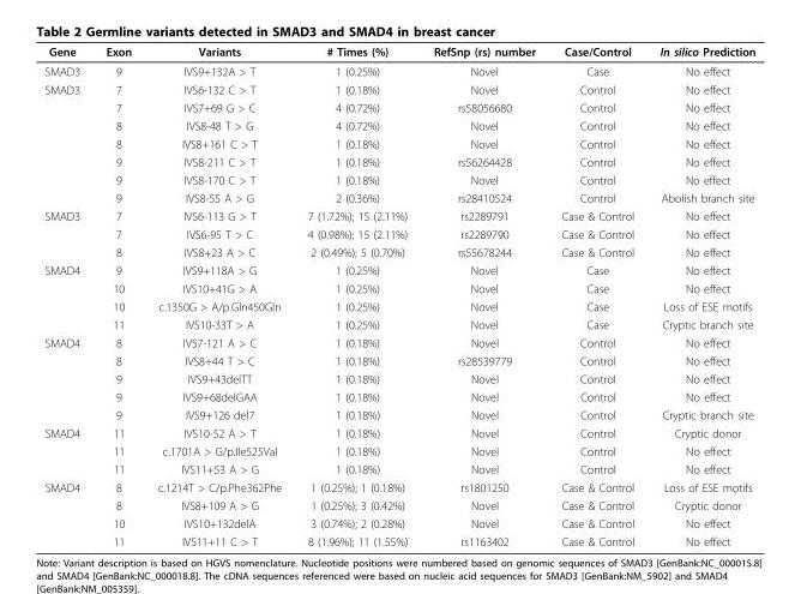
<table><thead><tr><td>Gene</td><td>Exon</td><td>Variants</td><td># Times (%)</td><td>RefSnp (rs) number</td><td>Case/Control</td><td>In silico Prediction</td></tr></thead><tbody><tr><td>SMAD3</td><td>9</td><td>IVS9+132A &gt; T</td><td>1 (0.25%)</td><td>Novel</td><td>Case</td><td>No effect</td></tr><tr><td rowspan="7">SMAD3</td><td>7</td><td>IVS6-132 C &gt; T</td><td>1 (0.18%)</td><td>Novel</td><td>Control</td><td>No effect</td></tr><tr><td>7</td><td>IVS7+69 G &gt; C</td><td>4 (0.72%)</td><td>rs58056680</td><td>Control</td><td>No effect</td></tr><tr><td>8</td><td>IVS8-48 T &gt; G</td><td>4 (0.72%)</td><td>Novel</td><td>Control</td><td>No effect</td></tr><tr><td>8</td><td>IVS8+161 C &gt; T</td><td>1 (0.18%)</td><td>Novel</td><td>Control</td><td>No effect</td></tr><tr><td>9</td><td>IVS8-211 C &gt; T</td><td>1 (0.18%)</td><td>rs56264428</td><td>Control</td><td>No effect</td></tr><tr><td>9</td><td>IVS8-170 C &gt; T</td><td>1 (0.18%)</td><td>Novel</td><td>Control</td><td>No effect</td></tr><tr><td>9</td><td>IVS8-55 A &gt; G</td><td>2 (0.36%)</td><td>rs28410524</td><td>Control</td><td>Abolish branch site</td></tr><tr><td rowspan="3">SMAD3</td><td>7</td><td>IVS6-113 G &gt; T</td><td>7 (1.72%); 15 (2.11%)</td><td>rs2289791</td><td>Case &amp; Control</td><td>No effect</td></tr><tr><td>7</td><td>IVS6-95 T &gt; C</td><td>4 (0.98%); 15 (2.11%)</td><td>rs2289790</td><td>Case &amp; Control</td><td>No effect</td></tr><tr><td>8</td><td>IVS8+23 A &gt; C</td><td>2 (0.49%); 5 (0.70%)</td><td>rs55678244</td><td>Case &amp; Control</td><td>No effect</td></tr><tr><td rowspan="4">SMAD4</td><td>9</td><td>IVS9+118A &gt; G</td><td>1 (0.25%)</td><td>Novel</td><td>Case</td><td>No effect</td></tr><tr><td>10</td><td>IVS10+41G &gt; A</td><td>1 (0.25%)</td><td>Novel</td><td>Case</td><td>No effect</td></tr><tr><td>10</td><td>c.1350G &gt; A/p.Gln450Gln</td><td>1 (0.25%)</td><td>Novel</td><td>Case</td><td>Loss of ESE motifs</td></tr><tr><td>11</td><td>IVS10-33T &gt; A</td><td>1 (0.25%)</td><td>Novel</td><td>Case</td><td>Cryptic branch site</td></tr><tr><td rowspan="5">SMAD4</td><td>8</td><td>IVS7-121 A &gt; C</td><td>1 (0.18%)</td><td>Novel</td><td>Control</td><td>No effect</td></tr><tr><td>8</td><td>IVS8+44 T &gt; C</td><td>1 (0.18%)</td><td>rs28539779</td><td>Control</td><td>No effect</td></tr><tr><td>9</td><td>IVS9+43delTT</td><td>1 (0.18%)</td><td>Novel</td><td>Control</td><td>No effect</td></tr><tr><td>9</td><td>IVS9+68delGAA</td><td>1 (0.18%)</td><td>Novel</td><td>Control</td><td>No effect</td></tr><tr><td>9</td><td>IVS9+126 del7</td><td>1 (0.18%)</td><td>Novel</td><td>Control</td><td>Cryptic branch site</td></tr><tr><td rowspan="3">SMAD4</td><td>11</td><td>IVS10-52 A &gt; T</td><td>1 (0.18%)</td><td>Novel</td><td>Control</td><td>Cryptic donor</td></tr><tr><td>11</td><td>c.1701A &gt; G/p.Ile525Val</td><td>1 (0.18%)</td><td>Novel</td><td>Control</td><td>No effect</td></tr><tr><td>11</td><td>IVS11+53 A &gt; G</td><td>1 (0.18%)</td><td>Novel</td><td>Control</td><td>No effect</td></tr><tr><td rowspan="4">SMAD4</td><td>8</td><td>c.1214T &gt; C/p.Phe362Phe</td><td>1 (0.25%); 1 (0.18%)</td><td>rs1801250</td><td>Case &amp; Control</td><td>Loss of ESE motifs</td></tr><tr><td>8</td><td>IVS8+109 A &gt; G</td><td>1 (0.25%); 3 (0.42%)</td><td>Novel</td><td>Case &amp; Control</td><td>Cryptic donor</td></tr><tr><td>10</td><td>IVS10+132delA</td><td>3 (0.74%); 2 (0.28%)</td><td>Novel</td><td>Case &amp; Control</td><td>No effect</td></tr><tr><td>11</td><td>IVS11+11 C &gt; T</td><td>8 (1.96%); 11 (1.55%)</td><td>rs1163402</td><td>Case &amp; Control</td><td>No effect</td></tr></tbody></table>